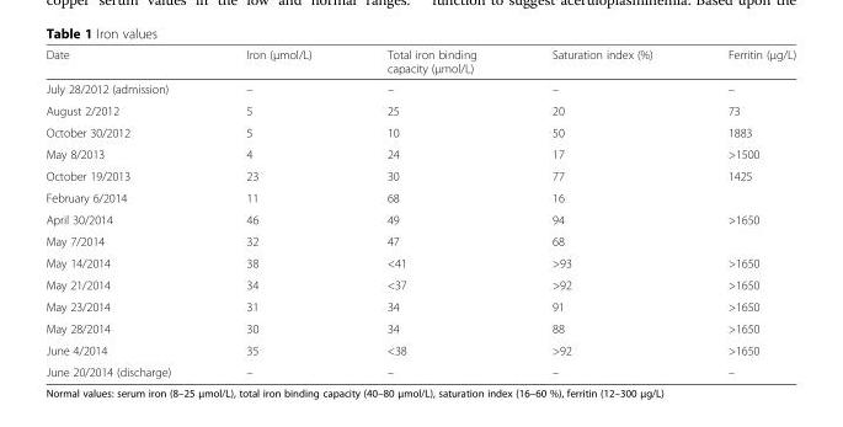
<table><thead><tr><td>Date</td><td>Iron (μmol/L)</td><td>Total iron binding capacity (μmol/L)</td><td>Saturation index (%)</td><td>Ferritin (μg/L)</td></tr></thead><tbody><tr><td>July 28/2012 (admission)</td><td>–</td><td>–</td><td>–</td><td>–</td></tr><tr><td>August 2/2012</td><td>5</td><td>25</td><td>20</td><td>73</td></tr><tr><td>October 30/2012</td><td>5</td><td>10</td><td>50</td><td>1883</td></tr><tr><td>May 8/2013</td><td>4</td><td>24</td><td>17</td><td>&gt;1500</td></tr><tr><td>October 19/2013</td><td>23</td><td>30</td><td>77</td><td>1425</td></tr><tr><td>February 6/2014</td><td>11</td><td>68</td><td>16</td><td></td></tr><tr><td>April 30/2014</td><td>46</td><td>49</td><td>94</td><td>&gt;1650</td></tr><tr><td>May 7/2014</td><td>32</td><td>47</td><td>68</td><td></td></tr><tr><td>May 14/2014</td><td>38</td><td>&lt;41</td><td>&gt;93</td><td>&gt;1650</td></tr><tr><td>May 21/2014</td><td>34</td><td>&lt;37</td><td>&gt;92</td><td>&gt;1650</td></tr><tr><td>May 23/2014</td><td>31</td><td>34</td><td>91</td><td>&gt;1650</td></tr><tr><td>May 28/2014</td><td>30</td><td>34</td><td>88</td><td>&gt;1650</td></tr><tr><td>June 4/2014</td><td>35</td><td>&lt;38</td><td>&gt;92</td><td>&gt;1650</td></tr><tr><td>June 20/2014 (discharge)</td><td>–</td><td>–</td><td>–</td><td>–</td></tr></tbody></table>